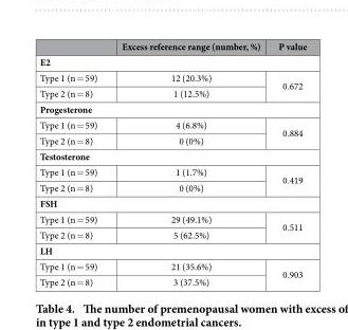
<table><thead><tr><td></td><td>Excess reference range (number, %)</td><td>P value</td></tr></thead><tbody><tr><td colspan="3">E2</td></tr><tr><td>Type 1 (n = 59)</td><td>12 (20.3%)</td><td rowspan="2">0.672</td></tr><tr><td>Type 2 (n = 8)</td><td>1 (12.5%)</td></tr><tr><td colspan="3">Progesterone</td></tr><tr><td>Type 1 (n = 59)</td><td>4 (6.8%)</td><td rowspan="2">0.884</td></tr><tr><td>Type 2 (n = 8)</td><td>0 (0%)</td></tr><tr><td colspan="3">Testosterone</td></tr><tr><td>Type 1 (n = 59)</td><td>1 (1.7%)</td><td rowspan="2">0.419</td></tr><tr><td>Type 2 (n = 8)</td><td>0 (0%)</td></tr><tr><td colspan="3">FSH</td></tr><tr><td>Type 1 (n = 59)</td><td>29 (49.1%)</td><td rowspan="2">0.511</td></tr><tr><td>Type 2 (n = 8)</td><td>5 (62.5%)</td></tr><tr><td colspan="3">LH</td></tr><tr><td>Type 1 (n = 59)</td><td>21 (35.6%)</td><td rowspan="2">0.903</td></tr><tr><td>Type 2 (n = 8)</td><td>3 (37.5%)</td></tr></tbody></table>